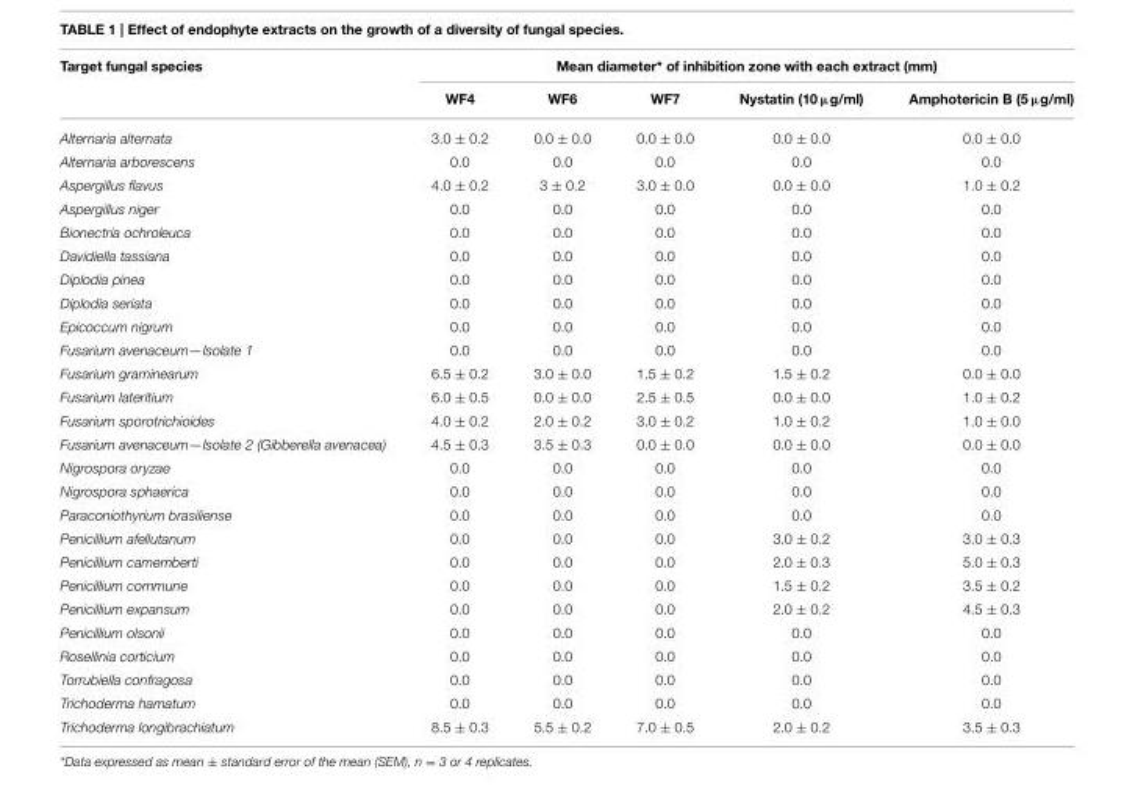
<table><thead><tr><td rowspan="2">Target fungal species</td><td colspan="5">Mean diameter* of inhibition zone with each extract (mm)</td></tr><tr><td>WF4</td><td>WF6</td><td>WF7</td><td>Nystatin (10 µg/ml)</td><td>Amphotericin B (5 µg/ml)</td></tr></thead><tbody><tr><td>Alternaria alternata</td><td>3.0 ± 0.2</td><td>0.0 ± 0.0</td><td>0.0 ± 0.0</td><td>0.0 ± 0.0</td><td>0.0 ± 0.0</td></tr><tr><td>Alternaria arborescens</td><td>0.0</td><td>0.0</td><td>0.0</td><td>0.0</td><td>0.0</td></tr><tr><td>Aspergillus flavus</td><td>4.0 ± 0.2</td><td>3 ± 0.2</td><td>3.0 ± 0.0</td><td>0.0 ± 0.0</td><td>1.0 ± 0.2</td></tr><tr><td>Aspergillus niger</td><td>0.0</td><td>0.0</td><td>0.0</td><td>0.0</td><td>0.0</td></tr><tr><td>Bionectria ochroleuca</td><td>0.0</td><td>0.0</td><td>0.0</td><td>0.0</td><td>0.0</td></tr><tr><td>Davidiella tassiana</td><td>0.0</td><td>0.0</td><td>0.0</td><td>0.0</td><td>0.0</td></tr><tr><td>Diplodia pinea</td><td>0.0</td><td>0.0</td><td>0.0</td><td>0.0</td><td>0.0</td></tr><tr><td>Diplodia seriata</td><td>0.0</td><td>0.0</td><td>0.0</td><td>0.0</td><td>0.0</td></tr><tr><td>Epicoccum nigrum</td><td>0.0</td><td>0.0</td><td>0.0</td><td>0.0</td><td>0.0</td></tr><tr><td>Fusarium avenaceum—Isolate 1</td><td>0.0</td><td>0.0</td><td>0.0</td><td>0.0</td><td>0.0</td></tr><tr><td>Fusarium graminearum</td><td>6.5 ± 0.2</td><td>3.0 ± 0.0</td><td>1.5 ± 0.2</td><td>1.5 ± 0.2</td><td>0.0 ± 0.0</td></tr><tr><td>Fusarium lateritium</td><td>6.0 ± 0.5</td><td>0.0 ± 0.0</td><td>2.5 ± 0.5</td><td>0.0 ± 0.0</td><td>1.0 ± 0.2</td></tr><tr><td>Fusarium sporotrichioides</td><td>4.0 ± 0.2</td><td>2.0 ± 0.2</td><td>3.0 ± 0.2</td><td>1.0 ± 0.2</td><td>1.0 ± 0.0</td></tr><tr><td>Fusarium avenaceum—Isolate 2 (Gibberella avenacea)</td><td>4.5 ± 0.3</td><td>3.5 ± 0.3</td><td>0.0 ± 0.0</td><td>0.0 ± 0.0</td><td>0.0 ± 0.0</td></tr><tr><td>Nigrospora oryzae</td><td>0.0</td><td>0.0</td><td>0.0</td><td>0.0</td><td>0.0</td></tr><tr><td>Nigrospora sphaerica</td><td>0.0</td><td>0.0</td><td>0.0</td><td>0.0</td><td>0.0</td></tr><tr><td>Paraconiothyrium brasiliense</td><td>0.0</td><td>0.0</td><td>0.0</td><td>0.0</td><td>0.0</td></tr><tr><td>Penicillium afellutanum</td><td>0.0</td><td>0.0</td><td>0.0</td><td>3.0 ± 0.2</td><td>3.0 ± 0.3</td></tr><tr><td>Penicillium camemberti</td><td>0.0</td><td>0.0</td><td>0.0</td><td>2.0 ± 0.3</td><td>5.0 ± 0.3</td></tr><tr><td>Penicillium commune</td><td>0.0</td><td>0.0</td><td>0.0</td><td>1.5 ± 0.2</td><td>3.5 ± 0.2</td></tr><tr><td>Penicillium expansum</td><td>0.0</td><td>0.0</td><td>0.0</td><td>2.0 ± 0.2</td><td>4.5 ± 0.3</td></tr><tr><td>Penicillium olsonii</td><td>0.0</td><td>0.0</td><td>0.0</td><td>0.0</td><td>0.0</td></tr><tr><td>Rosellinia corticium</td><td>0.0</td><td>0.0</td><td>0.0</td><td>0.0</td><td>0.0</td></tr><tr><td>Torrubiella confragosa</td><td>0.0</td><td>0.0</td><td>0.0</td><td>0.0</td><td>0.0</td></tr><tr><td>Trichoderma hamatum</td><td>0.0</td><td>0.0</td><td>0.0</td><td>0.0</td><td>0.0</td></tr><tr><td>Trichoderma longibrachiatum</td><td>8.5 ± 0.3</td><td>5.5 ± 0.2</td><td>7.0 ± 0.5</td><td>2.0 ± 0.2</td><td>3.5 ± 0.3</td></tr></tbody></table>